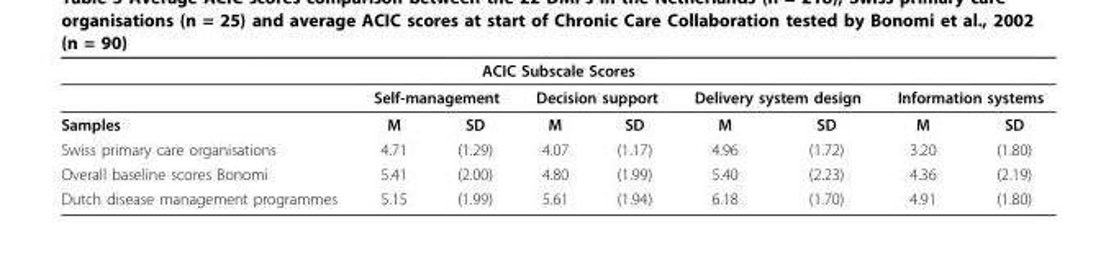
<table><thead><tr><td colspan="9">ACIC Subscale Scores</td></tr><tr><td rowspan="2">Samples</td><td colspan="2">Self-management</td><td colspan="2">Decision support</td><td colspan="2">Delivery system design</td><td colspan="2">Information systems</td></tr><tr><td>M</td><td>SD</td><td>M</td><td>SD</td><td>M</td><td>SD</td><td>M</td><td>SD</td></tr></thead><tbody><tr><td>Swiss primary care organisations</td><td>4.71</td><td>(1.29)</td><td>4.07</td><td>(1.17)</td><td>4.96</td><td>(1.72)</td><td>3.20</td><td>(1.80)</td></tr><tr><td>Overall baseline scores Bonomi</td><td>5.41</td><td>(2.00)</td><td>4.80</td><td>(1.99)</td><td>5.40</td><td>(2.23)</td><td>4.36</td><td>(2.19)</td></tr><tr><td>Dutch disease management programmes</td><td>5.15</td><td>(1.99)</td><td>5.61</td><td>(1.94)</td><td>6.18</td><td>(1.70)</td><td>4.91</td><td>(1.80)</td></tr></tbody></table>